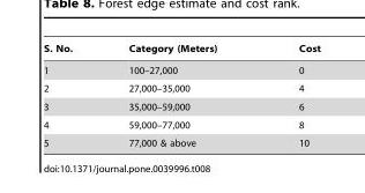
<table><thead><tr><td>S. No.</td><td>Category (Meters)</td><td>Cost</td></tr></thead><tbody><tr><td>1</td><td>100–27,000</td><td>0</td></tr><tr><td>2</td><td>27,000–35,000</td><td>4</td></tr><tr><td>3</td><td>35,000–59,000</td><td>6</td></tr><tr><td>4</td><td>59,000–77,000</td><td>8</td></tr><tr><td>5</td><td>77,000 &amp; above</td><td>10</td></tr></tbody></table>